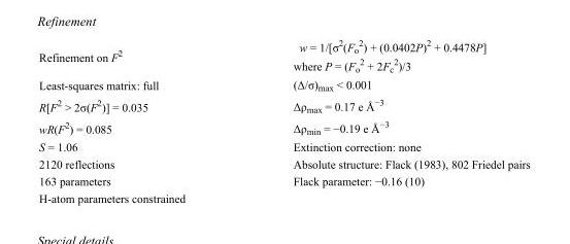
<table><tbody><tr><td>Refinement on F<sup>2</sup></td><td>w = 1/[σ<sup>2</sup>(F<sub>o</sub> <sup>2</sup>) + (0.0402P)<sup>2</sup> + 0.4478P] where P = (F<sub>o</sub> <sup>2</sup> + 2F<sub>c</sub> <sup>2</sup>)/3</td></tr><tr><td>Least-squares matrix: full</td><td>(Δ/σ)<sub>max</sub> &lt; 0.001</td></tr><tr><td>R[F<sup>2</sup> &gt; 2σ(F<sup>2</sup>)] = 0.035</td><td>Δρ<sub>max</sub> = 0.17 e Å<sup>−3</sup></td></tr><tr><td>wR(F<sup>2</sup>) = 0.085</td><td>Δρ<sub>min</sub> = −0.19 e Å<sup>−3</sup></td></tr><tr><td>S = 1.06</td><td>Extinction correction: none</td></tr><tr><td>2120 reflections</td><td>Absolute structure: Flack (1983), 802 Friedel pairs</td></tr><tr><td>163 parameters</td><td>Flack parameter: −0.16 (10)</td></tr><tr><td>H-atom parameters constrained</td><td></td></tr></tbody></table>